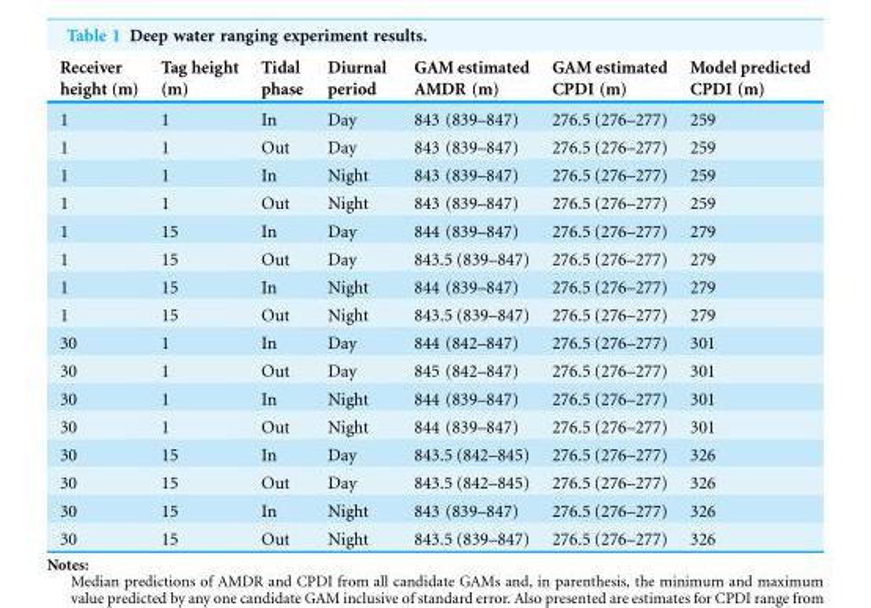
<table><thead><tr><td>Receiver height (m)</td><td>Tag height (m)</td><td>Tidal phase</td><td>Diurnal period</td><td>GAM estimated AMDR (m)</td><td>GAM estimated CPDI (m)</td><td>Model predicted CPDI (m)</td></tr></thead><tbody><tr><td>1</td><td>1</td><td>In</td><td>Day</td><td>843 (839–847)</td><td>276.5 (276–277)</td><td>259</td></tr><tr><td>1</td><td>1</td><td>Out</td><td>Day</td><td>843 (839–847)</td><td>276.5 (276–277)</td><td>259</td></tr><tr><td>1</td><td>1</td><td>In</td><td>Night</td><td>843 (839–847)</td><td>276.5 (276–277)</td><td>259</td></tr><tr><td>1</td><td>1</td><td>Out</td><td>Night</td><td>843 (839–847)</td><td>276.5 (276–277)</td><td>259</td></tr><tr><td>1</td><td>15</td><td>In</td><td>Day</td><td>844 (839–847)</td><td>276.5 (276–277)</td><td>279</td></tr><tr><td>1</td><td>15</td><td>Out</td><td>Day</td><td>843.5 (839–847)</td><td>276.5 (276–277)</td><td>279</td></tr><tr><td>1</td><td>15</td><td>In</td><td>Night</td><td>844 (839–847)</td><td>276.5 (276–277)</td><td>279</td></tr><tr><td>1</td><td>15</td><td>Out</td><td>Night</td><td>843.5 (839–847)</td><td>276.5 (276–277)</td><td>279</td></tr><tr><td>30</td><td>1</td><td>In</td><td>Day</td><td>844 (842–847)</td><td>276.5 (276–277)</td><td>301</td></tr><tr><td>30</td><td>1</td><td>Out</td><td>Day</td><td>845 (842–847)</td><td>276.5 (276–277)</td><td>301</td></tr><tr><td>30</td><td>1</td><td>In</td><td>Night</td><td>844 (839–847)</td><td>276.5 (276–277)</td><td>301</td></tr><tr><td>30</td><td>1</td><td>Out</td><td>Night</td><td>844 (839–847)</td><td>276.5 (276–277)</td><td>301</td></tr><tr><td>30</td><td>15</td><td>In</td><td>Day</td><td>843.5 (842–845)</td><td>276.5 (276–277)</td><td>326</td></tr><tr><td>30</td><td>15</td><td>Out</td><td>Day</td><td>843.5 (842–845)</td><td>276.5 (276–277)</td><td>326</td></tr><tr><td>30</td><td>15</td><td>In</td><td>Night</td><td>843 (839–847)</td><td>276.5 (276–277)</td><td>326</td></tr><tr><td>30</td><td>15</td><td>Out</td><td>Night</td><td>843.5 (839–847)</td><td>276.5 (276–277)</td><td>326</td></tr></tbody></table>